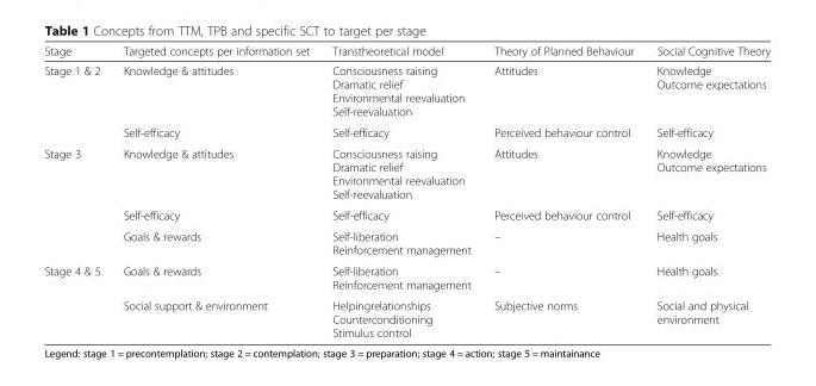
<table><thead><tr><td>Stage</td><td>Targeted concepts per information set</td><td>Transtheoretical model</td><td>Theory of Planned Behaviour</td><td>Social Cognitive Theory</td></tr></thead><tbody><tr><td rowspan="2">Stage 1 &amp; 2</td><td>Knowledge &amp; attitudes</td><td>Consciousness raising Dramatic relief Environmental reevaluation Self-reevaluation</td><td>Attitudes</td><td>Knowledge Outcome expectations</td></tr><tr><td>Self-efficacy</td><td>Self-efficacy</td><td>Perceived behaviour control</td><td>Self-efficacy</td></tr><tr><td rowspan="3">Stage 3</td><td>Knowledge &amp; attitudes</td><td>Consciousness raising Dramatic relief Environmental reevaluation Self-reevaluation</td><td>Attitudes</td><td>Knowledge Outcome expectations</td></tr><tr><td>Self-efficacy</td><td>Self-efficacy</td><td>Perceived behaviour control</td><td>Self-efficacy</td></tr><tr><td>Goals &amp; rewards</td><td>Self-liberation Reinforcement management</td><td>–</td><td>Health goals</td></tr><tr><td rowspan="2">Stage 4 &amp; 5</td><td>Goals &amp; rewards</td><td>Self-liberation Reinforcement management</td><td>–</td><td>Health goals</td></tr><tr><td>Social support &amp; environment</td><td>Helpingrelationships Counterconditioning Stimulus control</td><td>Subjective norms</td><td>Social and physical environment</td></tr></tbody></table>